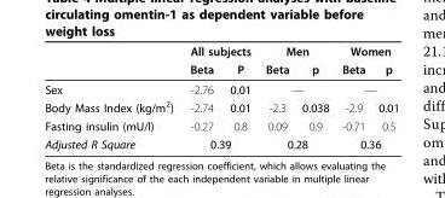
<table><thead><tr><td rowspan="2"></td><td colspan="2">All subjects</td><td colspan="2">Men</td><td colspan="2">Women</td></tr><tr><td>Beta</td><td>P</td><td>Beta</td><td>p</td><td>Beta</td><td>p</td></tr></thead><tbody><tr><td>Sex</td><td>-2.76</td><td>0.01</td><td colspan="2">—</td><td colspan="2">—</td></tr><tr><td>Body Mass Index (kg/m<sup>2</sup>)</td><td>-2.74</td><td>0.01</td><td>-2.3</td><td>0.038</td><td>-2.9</td><td>0.01</td></tr><tr><td>Fasting insulin (mU/l)</td><td>-0.27</td><td>0.8</td><td>0.09</td><td>0.9</td><td>-0.71</td><td>0.5</td></tr><tr><td>Adjusted R Square</td><td colspan="2">0.39</td><td colspan="2">0.28</td><td colspan="2">0.36</td></tr></tbody></table>